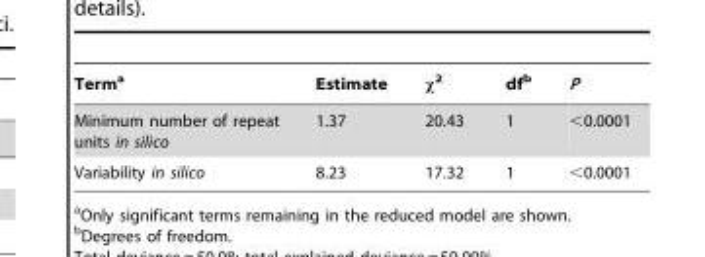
<table><thead><tr><td>Term<sup>a</sup></td><td>Estimate</td><td>χ<sup>2</sup></td><td>df<sup>b</sup></td><td>P</td></tr></thead><tbody><tr><td>Minimum number of repeat units in silico</td><td>1.37</td><td>20.43</td><td>1</td><td>&lt;0.0001</td></tr><tr><td>Variability in silico</td><td>8.23</td><td>17.32</td><td>1</td><td>&lt;0.0001</td></tr></tbody></table>